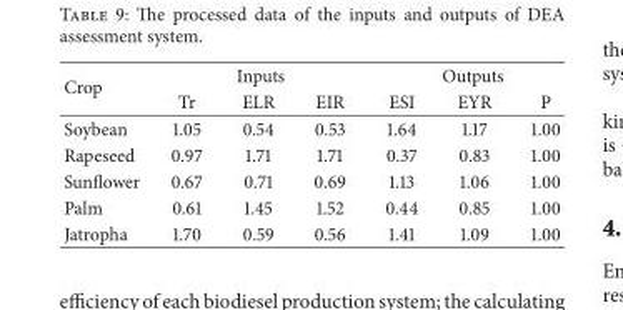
<table><thead><tr><td rowspan="2">Crop</td><td colspan="3">Inputs</td><td colspan="3">Outputs</td></tr><tr><td>Tr</td><td>ELR</td><td>EIR</td><td>ESI</td><td>EYR</td><td>P</td></tr></thead><tbody><tr><td>Soybean</td><td>1.05</td><td>0.54</td><td>0.53</td><td>1.64</td><td>1.17</td><td>1.00</td></tr><tr><td>Rapeseed</td><td>0.97</td><td>1.71</td><td>1.71</td><td>0.37</td><td>0.83</td><td>1.00</td></tr><tr><td>Sunflower</td><td>0.67</td><td>0.71</td><td>0.69</td><td>1.13</td><td>1.06</td><td>1.00</td></tr><tr><td>Palm</td><td>0.61</td><td>1.45</td><td>1.52</td><td>0.44</td><td>0.85</td><td>1.00</td></tr><tr><td>Jatropha</td><td>1.70</td><td>0.59</td><td>0.56</td><td>1.41</td><td>1.09</td><td>1.00</td></tr></tbody></table>